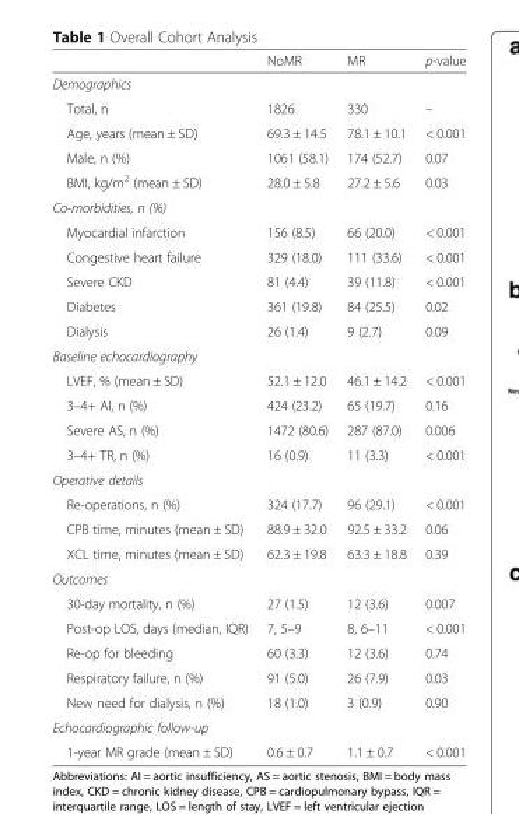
<table><thead><tr><td></td><td>NoMR</td><td>MR</td><td>p-value</td></tr></thead><tbody><tr><td colspan="4">Demographics</td></tr><tr><td>Total, n</td><td>1826</td><td>330</td><td>–</td></tr><tr><td>Age, years (mean ± SD)</td><td>69.3 ± 14.5</td><td>78.1 ± 10.1</td><td>&lt; 0.001</td></tr><tr><td>Male, n (%)</td><td>1061 (58.1)</td><td>174 (52.7)</td><td>0.07</td></tr><tr><td>BMI, kg/m<sup>2</sup> (mean ± SD)</td><td>28.0 ± 5.8</td><td>27.2 ± 5.6</td><td>0.03</td></tr><tr><td colspan="4">Co-morbidities, n (%)</td></tr><tr><td>Myocardial infarction</td><td>156 (8.5)</td><td>66 (20.0)</td><td>&lt; 0.001</td></tr><tr><td>Congestive heart failure</td><td>329 (18.0)</td><td>111 (33.6)</td><td>&lt; 0.001</td></tr><tr><td>Severe CKD</td><td>81 (4.4)</td><td>39 (11.8)</td><td>&lt; 0.001</td></tr><tr><td>Diabetes</td><td>361 (19.8)</td><td>84 (25.5)</td><td>0.02</td></tr><tr><td>Dialysis</td><td>26 (1.4)</td><td>9 (2.7)</td><td>0.09</td></tr><tr><td colspan="4">Baseline echocardiography</td></tr><tr><td>LVEF, % (mean ± SD)</td><td>52.1 ± 12.0</td><td>46.1 ± 14.2</td><td>&lt; 0.001</td></tr><tr><td>3–4+ AI, n (%)</td><td>424 (23.2)</td><td>65 (19.7)</td><td>0.16</td></tr><tr><td>Severe AS, n (%)</td><td>1472 (80.6)</td><td>287 (87.0)</td><td>0.006</td></tr><tr><td>3–4+ TR, n (%)</td><td>16 (0.9)</td><td>11 (3.3)</td><td>&lt; 0.001</td></tr><tr><td colspan="4">Operative details</td></tr><tr><td>Re-operations, n (%)</td><td>324 (17.7)</td><td>96 (29.1)</td><td>&lt; 0.001</td></tr><tr><td>CPB time, minutes (mean ± SD)</td><td>88.9 ± 32.0</td><td>92.5 ± 33.2</td><td>0.06</td></tr><tr><td>XCL time, minutes (mean ± SD)</td><td>62.3 ± 19.8</td><td>63.3 ± 18.8</td><td>0.39</td></tr><tr><td colspan="4">Outcomes</td></tr><tr><td>30-day mortality, n (%)</td><td>27 (1.5)</td><td>12 (3.6)</td><td>0.007</td></tr><tr><td>Post-op LOS, days (median, IQR)</td><td>7, 5–9</td><td>8, 6–11</td><td>&lt; 0.001</td></tr><tr><td>Re-op for bleeding</td><td>60 (3.3)</td><td>12 (3.6)</td><td>0.74</td></tr><tr><td>Respiratory failure, n (%)</td><td>91 (5.0)</td><td>26 (7.9)</td><td>0.03</td></tr><tr><td>New need for dialysis, n (%)</td><td>18 (1.0)</td><td>3 (0.9)</td><td>0.90</td></tr><tr><td colspan="4">Echocardiographic follow-up</td></tr><tr><td>1-year MR grade (mean ± SD)</td><td>0.6 ± 0.7</td><td>1.1 ± 0.7</td><td>&lt; 0.001</td></tr></tbody></table>